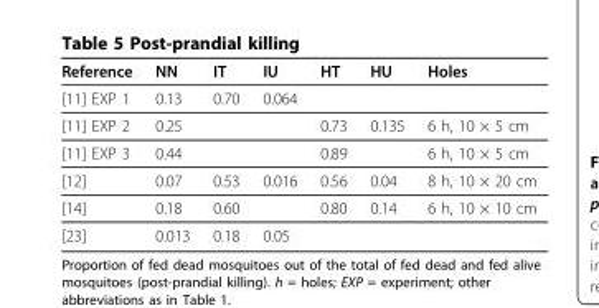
<table><thead><tr><td>Reference</td><td>NN</td><td>IT</td><td>IU</td><td>HT</td><td>HU</td><td>Holes</td></tr></thead><tbody><tr><td>[11] EXP 1</td><td>0.13</td><td>0.70</td><td>0.064</td><td></td><td></td><td></td></tr><tr><td>[11] EXP 2</td><td>0.25</td><td></td><td></td><td>0.73</td><td>0.135</td><td>6 h, 10 × 5 cm</td></tr><tr><td>[11] EXP 3</td><td>0.44</td><td></td><td></td><td>0.89</td><td></td><td>6 h, 10 × 5 cm</td></tr><tr><td>[12]</td><td>0.07</td><td>0.53</td><td>0.016</td><td>0.56</td><td>0.04</td><td>8 h, 10 × 20 cm</td></tr><tr><td>[14]</td><td>0.18</td><td>0.60</td><td></td><td>0.80</td><td>0.14</td><td>6 h, 10 × 10 cm</td></tr><tr><td>[23]</td><td>0.013</td><td>0.18</td><td>0.05</td><td></td><td></td><td></td></tr></tbody></table>